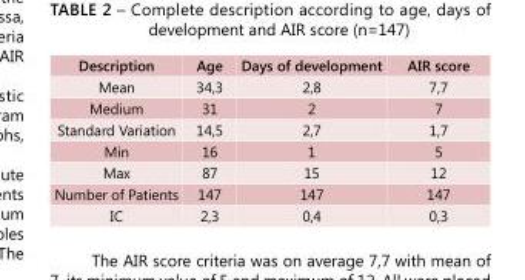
<table><tbody><tr><td>Description</td><td>Age</td><td>Days of development</td><td>AIR score</td></tr><tr><td>Mean</td><td>34,3</td><td>2,8</td><td>7,7</td></tr><tr><td>Medium</td><td>31</td><td>2</td><td>7</td></tr><tr><td>Standard Variation</td><td>14,5</td><td>2,7</td><td>1,7</td></tr><tr><td>Min</td><td>16</td><td>1</td><td>5</td></tr><tr><td>Max</td><td>87</td><td>15</td><td>12</td></tr><tr><td>Number of Patients</td><td>147</td><td>147</td><td>147</td></tr><tr><td>IC</td><td>2,3</td><td>0,4</td><td>0,3</td></tr></tbody></table>